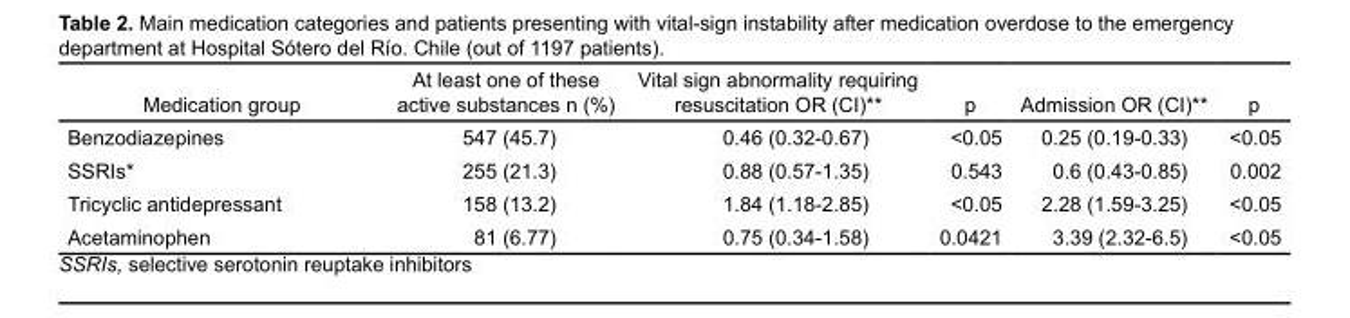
<table><thead><tr><td>Medication group</td><td>At least one of these active substances n (%)</td><td>Vital sign abnormality requiring resuscitation OR (CI)**</td><td>p</td><td>Admission OR (CI)**</td><td>p</td></tr></thead><tbody><tr><td>Benzodiazepines</td><td>547 (45.7)</td><td>0.46 (0.32-0.67)</td><td>&lt;0.05</td><td>0.25 (0.19-0.33)</td><td>&lt;0.05</td></tr><tr><td>SSRIs*</td><td>255 (21.3)</td><td>0.88 (0.57-1.35)</td><td>0.543</td><td>0.6 (0.43-0.85)</td><td>0.002</td></tr><tr><td>Tricyclic antidepressant</td><td>158 (13.2)</td><td>1.84 (1.18-2.85)</td><td>&lt;0.05</td><td>2.28 (1.59-3.25)</td><td>&lt;0.05</td></tr><tr><td>Acetaminophen</td><td>81 (6.77)</td><td>0.75 (0.34-1.58)</td><td>0.0421</td><td>3.39 (2.32-6.5)</td><td>&lt;0.05</td></tr></tbody></table>